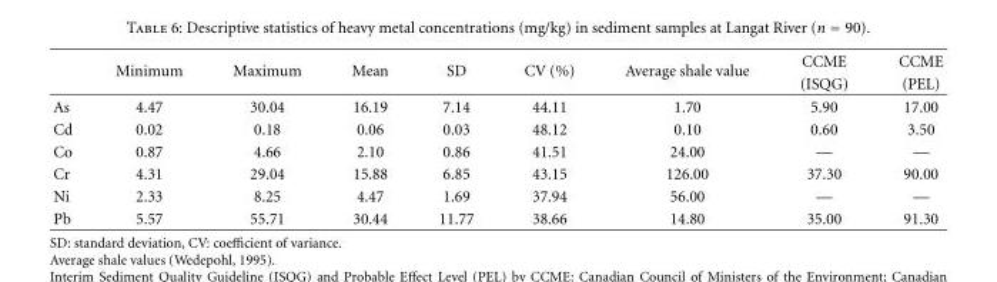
<table><thead><tr><td rowspan="2"></td><td rowspan="2">Minimum</td><td rowspan="2">Maximum</td><td rowspan="2">Mean</td><td rowspan="2">SD</td><td rowspan="2">CV (%)</td><td rowspan="2">Average shale value</td><td rowspan="2">CCME (ISQG)</td><td rowspan="2">CCME (PEL)</td></tr><tr></tr></thead><tbody><tr><td>As</td><td>4.47</td><td>30.04</td><td>16.19</td><td>7.14</td><td>44.11</td><td>1.70</td><td>5.90</td><td>17.00</td></tr><tr><td>Cd</td><td>0.02</td><td>0.18</td><td>0.06</td><td>0.03</td><td>48.12</td><td>0.10</td><td>0.60</td><td>3.50</td></tr><tr><td>Co</td><td>0.87</td><td>4.66</td><td>2.10</td><td>0.86</td><td>41.51</td><td>24.00</td><td>—</td><td>—</td></tr><tr><td>Cr</td><td>4.31</td><td>29.04</td><td>15.88</td><td>6.85</td><td>43.15</td><td>126.00</td><td>37.30</td><td>90.00</td></tr><tr><td>Ni</td><td>2.33</td><td>8.25</td><td>4.47</td><td>1.69</td><td>37.94</td><td>56.00</td><td>—</td><td>—</td></tr><tr><td>Pb</td><td>5.57</td><td>55.71</td><td>30.44</td><td>11.77</td><td>38.66</td><td>14.80</td><td>35.00</td><td>91.30</td></tr></tbody></table>